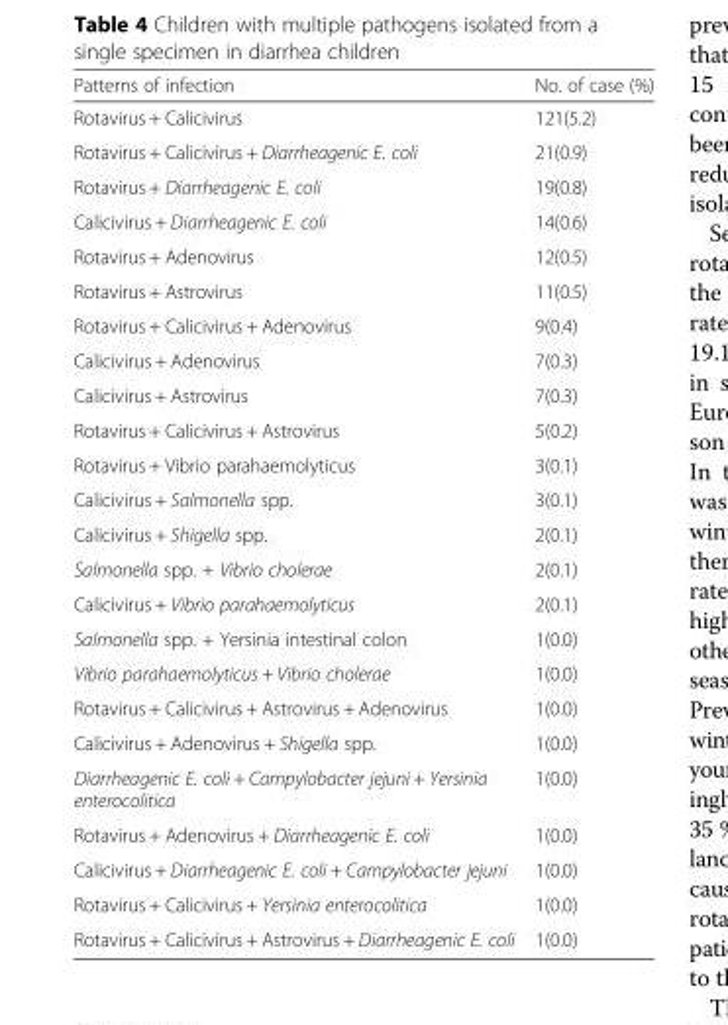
<table><thead><tr><td>Patterns of infection</td><td>No. of case (%)</td></tr></thead><tbody><tr><td>Rotavirus + Calicivirus</td><td>121(5.2)</td></tr><tr><td>Rotavirus + Calicivirus + Diarrheagenic E. coli</td><td>21(0.9)</td></tr><tr><td>Rotavirus + Diarrheagenic E. coli</td><td>19(0.8)</td></tr><tr><td>Calicivirus + Diarrheagenic E. coli</td><td>14(0.6)</td></tr><tr><td>Rotavirus + Adenovirus</td><td>12(0.5)</td></tr><tr><td>Rotavirus + Astrovirus</td><td>11(0.5)</td></tr><tr><td>Rotavirus + Calicivirus + Adenovirus</td><td>9(0.4)</td></tr><tr><td>Calicivirus + Adenovirus</td><td>7(0.3)</td></tr><tr><td>Calicivirus + Astrovirus</td><td>7(0.3)</td></tr><tr><td>Rotavirus + Calicivirus + Astrovirus</td><td>5(0.2)</td></tr><tr><td>Rotavirus + Vibrio parahaemolyticus</td><td>3(0.1)</td></tr><tr><td>Calicivirus + Salmonella spp.</td><td>3(0.1)</td></tr><tr><td>Calicivirus + Shigella spp.</td><td>2(0.1)</td></tr><tr><td>Salmonella spp. + Vibrio cholerae</td><td>2(0.1)</td></tr><tr><td>Calicivirus + Vibrio parahaemolyticus</td><td>2(0.1)</td></tr><tr><td>Salmonella spp. + Yersinia intestinal colon</td><td>1(0.0)</td></tr><tr><td>Vibrio parahaemolyticus + Vibrio cholerae</td><td>1(0.0)</td></tr><tr><td>Rotavirus + Calicivirus + Astrovirus + Adenovirus</td><td>1(0.0)</td></tr><tr><td>Calicivirus + Adenovirus + Shigella spp.</td><td>1(0.0)</td></tr><tr><td>Diarrheagenic E. coli + Campylobacter jejuni + Yersinia enterocolitica</td><td>1(0.0)</td></tr><tr><td>Rotavirus + Adenovirus + Diarrheagenic E. coli</td><td>1(0.0)</td></tr><tr><td>Calicivirus + Diarrheagenic E. coli + Campylobacter jejuni</td><td>1(0.0)</td></tr><tr><td>Rotavirus + Calicivirus + Yersinia enterocolitica</td><td>1(0.0)</td></tr><tr><td>Rotavirus + Calicivirus + Astrovirus + Diarrheagenic E. coli</td><td>1(0.0)</td></tr></tbody></table>